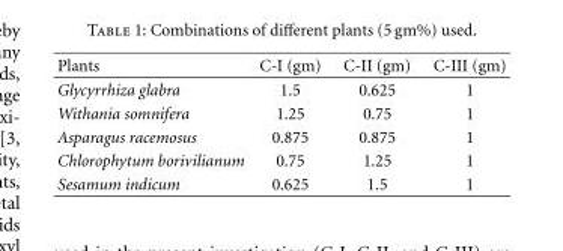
<table><thead><tr><td>Plants</td><td>C-I (gm)</td><td>C-II (gm)</td><td>C-III (gm)</td></tr></thead><tbody><tr><td>Glycyrrhiza glabra</td><td>1.5</td><td>0.625</td><td>1</td></tr><tr><td>Withania somnifera</td><td>1.25</td><td>0.75</td><td>1</td></tr><tr><td>Asparagus racemosus</td><td>0.875</td><td>0.875</td><td>1</td></tr><tr><td>Chlorophytum borivilianum</td><td>0.75</td><td>1.25</td><td>1</td></tr><tr><td>Sesamum indicum</td><td>0.625</td><td>1.5</td><td>1</td></tr></tbody></table>